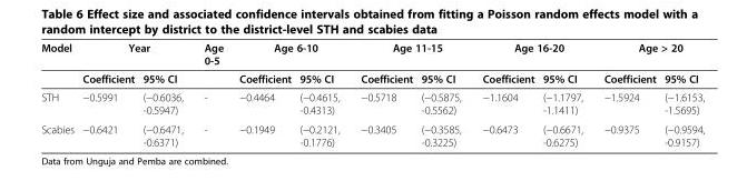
<table><thead><tr><td rowspan="2">Model</td><td colspan="2">Year</td><td rowspan="2">Age 0-5</td><td colspan="2">Age 6-10</td><td colspan="2">Age 11-15</td><td colspan="2">Age 16-20</td><td colspan="2">Age &gt; 20</td></tr><tr><td>Coefficient</td><td>95% CI</td><td>Coefficient</td><td>95% CI</td><td>Coefficient</td><td>95% CI</td><td>Coefficient</td><td>95% CI</td><td>Coefficient</td><td>95% CI</td></tr></thead><tbody><tr><td>STH</td><td>−0.5991</td><td>(−0.6036, -0.5947)</td><td>-</td><td>−0.4464</td><td>(−0.4615, -0.4313)</td><td>−0.5718</td><td>(−0.5875, -0.5562)</td><td>−1.1604</td><td>(−1.1797, -1.1411)</td><td>−1.5924</td><td>(−1.6153, -1.5695)</td></tr><tr><td>Scabies</td><td>−0.6421</td><td>(−0.6471, -0.6371)</td><td>-</td><td>−0.1949</td><td>(−0.2121, -0.1776)</td><td>−0.3405</td><td>(−0.3585, -0.3225)</td><td>−0.6473</td><td>(−0.6671, -0.6275)</td><td>−0.9375</td><td>(−0.9594, -0.9157)</td></tr></tbody></table>